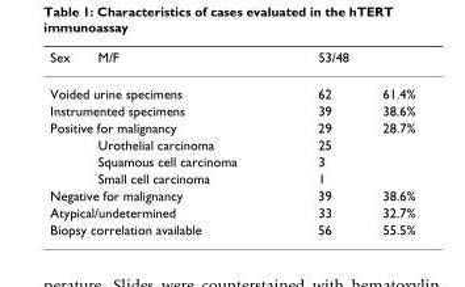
<table><thead><tr><td>Sex</td><td>M/F</td><td>53/48</td><td></td></tr></thead><tbody><tr><td colspan="2">Voided urine specimens</td><td>62</td><td>61.4%</td></tr><tr><td colspan="2">Instrumented specimens</td><td>39</td><td>38.6%</td></tr><tr><td colspan="2">Positive for malignancy</td><td>29</td><td>28.7%</td></tr><tr><td></td><td>Urothelial carcinoma</td><td>25</td><td></td></tr><tr><td></td><td>Squamous cell carcinoma</td><td>3</td><td></td></tr><tr><td></td><td>Small cell carcinoma</td><td>1</td><td></td></tr><tr><td colspan="2">Negative for malignancy</td><td>39</td><td>38.6%</td></tr><tr><td colspan="2">Atypical/undetermined</td><td>33</td><td>32.7%</td></tr><tr><td colspan="2">Biopsy correlation available</td><td>56</td><td>55.5%</td></tr></tbody></table>